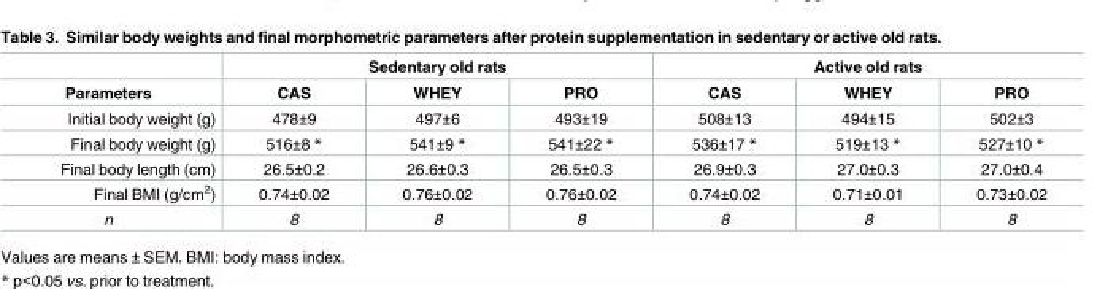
<table><thead><tr><td rowspan="2">Parameters</td><td colspan="3">Sedentary old rats</td><td colspan="3">Active old rats</td></tr><tr><td>CAS</td><td>WHEY</td><td>PRO</td><td>CAS</td><td>WHEY</td><td>PRO</td></tr></thead><tbody><tr><td>Initial body weight (g)</td><td>478±9</td><td>497±6</td><td>493±19</td><td>508±13</td><td>494±15</td><td>502±3</td></tr><tr><td>Final body weight (g)</td><td>516±8 *</td><td>541±9 *</td><td>541±22 *</td><td>536±17 *</td><td>519±13 *</td><td>527±10 *</td></tr><tr><td>Final body length (cm)</td><td>26.5±0.2</td><td>26.6±0.3</td><td>26.5±0.3</td><td>26.9±0.3</td><td>27.0±0.3</td><td>27.0±0.4</td></tr><tr><td>Final BMI (g/cm<sup>2</sup>)</td><td>0.74±0.02</td><td>0.76±0.02</td><td>0.76±0.02</td><td>0.74±0.02</td><td>0.71±0.01</td><td>0.73±0.02</td></tr><tr><td>n</td><td>8</td><td>8</td><td>8</td><td>8</td><td>8</td><td>8</td></tr></tbody></table>